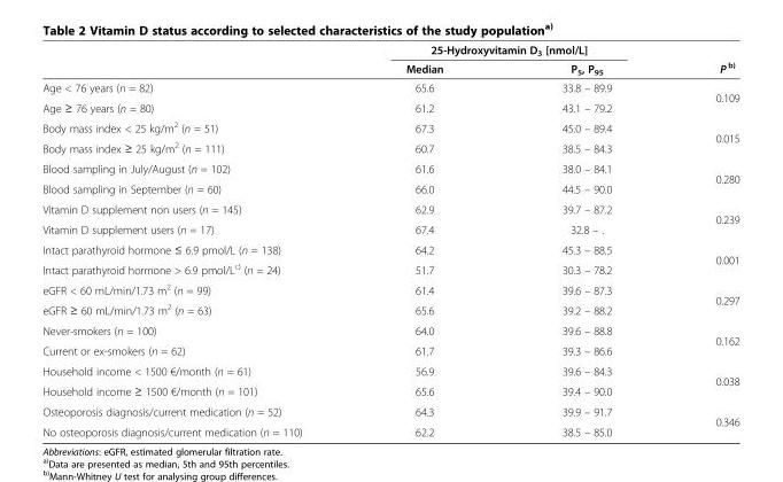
<table><thead><tr><td rowspan="2"></td><td colspan="2">25-Hydroxyvitamin D<sub>3</sub> [nmol/L]</td><td rowspan="2">P <sup>b)</sup></td></tr><tr><td>Median</td><td>P<sub>5</sub>, P<sub>95</sub></td></tr></thead><tbody><tr><td>Age &lt; 76 years (n = 82)</td><td>65.6</td><td>33.8 – 89.9</td><td rowspan="2">0.109</td></tr><tr><td>Age ≥ 76 years (n = 80)</td><td>61.2</td><td>43.1 – 79.2</td></tr><tr><td>Body mass index &lt; 25 kg/m<sup>2</sup> (n = 51)</td><td>67.3</td><td>45.0 – 89.4</td><td rowspan="2">0.015</td></tr><tr><td>Body mass index ≥ 25 kg/m<sup>2</sup> (n = 111)</td><td>60.7</td><td>38.5 – 84.3</td></tr><tr><td>Blood sampling in July/August (n = 102)</td><td>61.6</td><td>38.0 – 84.1</td><td rowspan="2">0.280</td></tr><tr><td>Blood sampling in September (n = 60)</td><td>66.0</td><td>44.5 – 90.0</td></tr><tr><td>Vitamin D supplement non users (n = 145)</td><td>62.9</td><td>39.7 – 87.2</td><td rowspan="2">0.239</td></tr><tr><td>Vitamin D supplement users (n = 17)</td><td>67.4</td><td>32.8 – .</td></tr><tr><td>Intact parathyroid hormone ≤ 6.9 pmol/L (n = 138)</td><td>64.2</td><td>45.3 – 88.5</td><td rowspan="2">0.001</td></tr><tr><td>Intact parathyroid hormone &gt; 6.9 pmol/L<sup>c)</sup> (n = 24)</td><td>51.7</td><td>30.3 – 78.2</td></tr><tr><td>eGFR &lt; 60 mL/min/1.73 m<sup>2</sup> (n = 99)</td><td>61.4</td><td>39.6 – 87.3</td><td rowspan="2">0.297</td></tr><tr><td>eGFR ≥ 60 mL/min/1.73 m<sup>2</sup> (n = 63)</td><td>65.6</td><td>39.2 – 88.2</td></tr><tr><td>Never-smokers (n = 100)</td><td>64.0</td><td>39.6 – 88.8</td><td rowspan="2">0.162</td></tr><tr><td>Current or ex-smokers (n = 62)</td><td>61.7</td><td>39.3 – 86.6</td></tr><tr><td>Household income &lt; 1500 €/month (n = 61)</td><td>56.9</td><td>39.6 – 84.3</td><td rowspan="2">0.038</td></tr><tr><td>Household income ≥ 1500 €/month (n = 101)</td><td>65.6</td><td>39.4 – 90.0</td></tr><tr><td>Osteoporosis diagnosis/current medication (n = 52)</td><td>64.3</td><td>39.9 – 91.7</td><td rowspan="2">0.346</td></tr><tr><td>No osteoporosis diagnosis/current medication (n = 110)</td><td>62.2</td><td>38.5 – 85.0</td></tr></tbody></table>